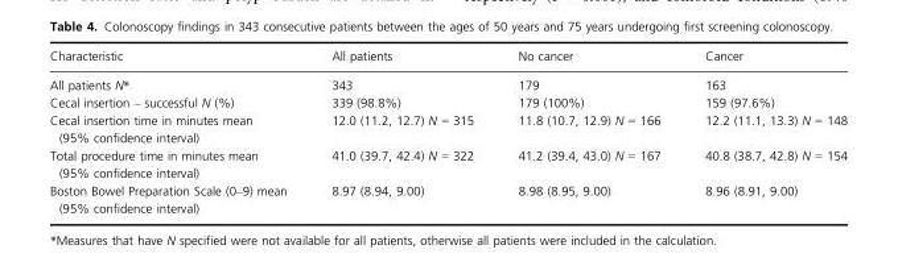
<table><thead><tr><td>Characteristic</td><td>All patients</td><td>No cancer</td><td>Cancer</td></tr></thead><tbody><tr><td>All patients N*</td><td>343</td><td>179</td><td>163</td></tr><tr><td>Cecal insertion – successful N (%)</td><td>339 (98.8%)</td><td>179 (100%)</td><td>159 (97.6%)</td></tr><tr><td>Cecal insertion time in minutes mean (95% confidence interval)</td><td>12.0 (11.2, 12.7) N = 315</td><td>11.8 (10.7, 12.9) N = 166</td><td>12.2 (11.1, 13.3) N = 148</td></tr><tr><td>Total procedure time in minutes mean (95% confidence interval)</td><td>41.0 (39.7, 42.4) N = 322</td><td>41.2 (39.4, 43.0) N = 167</td><td>40.8 (38.7, 42.8) N = 154</td></tr><tr><td>Boston Bowel Preparation Scale (0–9) mean (95% confidence interval)</td><td>8.97 (8.94, 9.00)</td><td>8.98 (8.95, 9.00)</td><td>8.96 (8.91, 9.00)</td></tr></tbody></table>